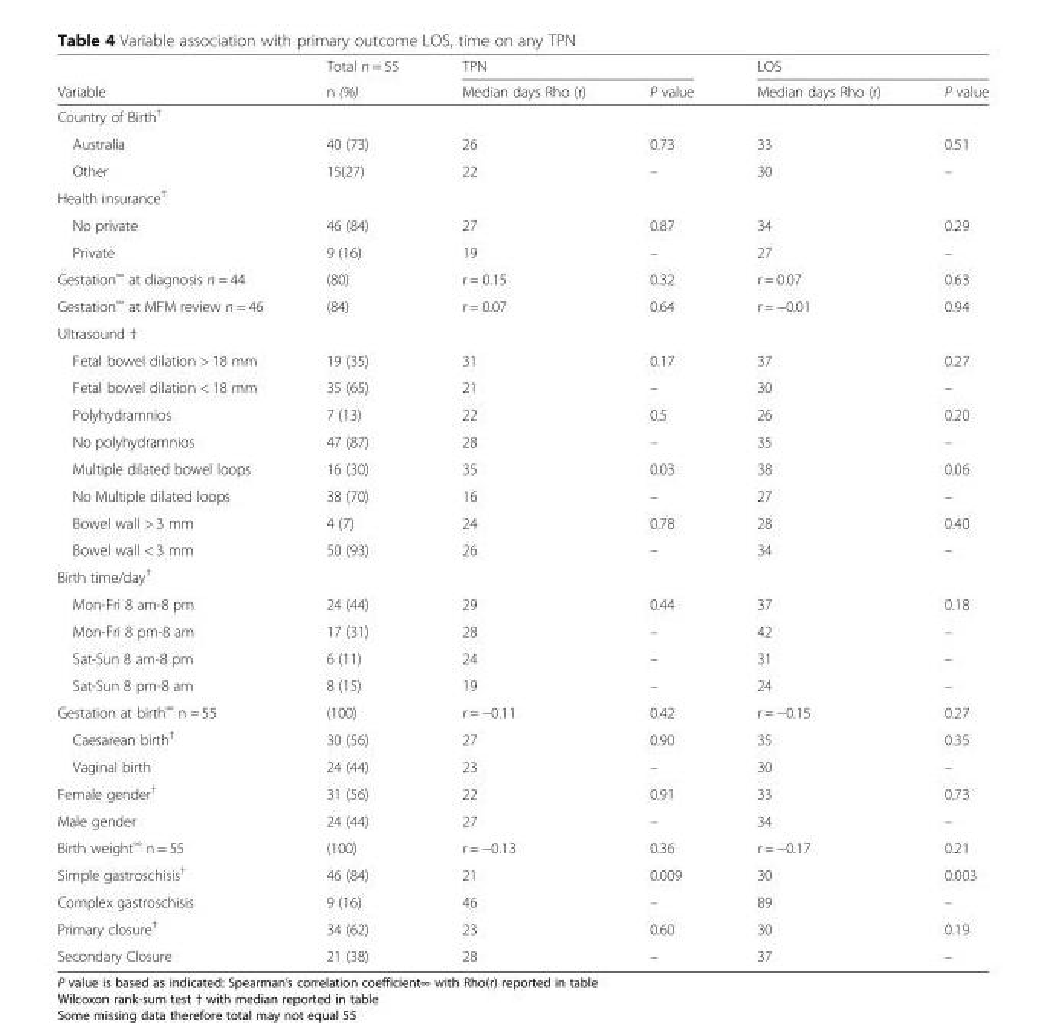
<table><thead><tr><td rowspan="2">Variable</td><td rowspan="2">Total n = 55 n (%)</td><td colspan="2">TPN</td><td colspan="2">LOS</td></tr><tr><td>Median days Rho (r)</td><td>P value</td><td>Median days Rho (r)</td><td>P value</td></tr></thead><tbody><tr><td colspan="6">Country of Birth<sup>†</sup></td></tr><tr><td>Australia</td><td>40 (73)</td><td>26</td><td>0.73</td><td>33</td><td>0.51</td></tr><tr><td>Other</td><td>15(27)</td><td>22</td><td>–</td><td>30</td><td>–</td></tr><tr><td colspan="6">Health insurance<sup>†</sup></td></tr><tr><td>No private</td><td>46 (84)</td><td>27</td><td>0.87</td><td>34</td><td>0.29</td></tr><tr><td>Private</td><td>9 (16)</td><td>19</td><td>–</td><td>27</td><td>–</td></tr><tr><td>Gestation<sup>∞</sup> at diagnosis n = 44</td><td>(80)</td><td>r = 0.15</td><td>0.32</td><td>r = 0.07</td><td>0.63</td></tr><tr><td>Gestation<sup>∞</sup> at MFM review n = 46</td><td>(84)</td><td>r = 0.07</td><td>0.64</td><td>r = −0.01</td><td>0.94</td></tr><tr><td colspan="6">Ultrasound †</td></tr><tr><td>Fetal bowel dilation &gt; 18 mm</td><td>19 (35)</td><td>31</td><td>0.17</td><td>37</td><td>0.27</td></tr><tr><td>Fetal bowel dilation &lt; 18 mm</td><td>35 (65)</td><td>21</td><td>–</td><td>30</td><td>–</td></tr><tr><td>Polyhydramnios</td><td>7 (13)</td><td>22</td><td>0.5</td><td>26</td><td>0.20</td></tr><tr><td>No polyhydramnios</td><td>47 (87)</td><td>28</td><td>–</td><td>35</td><td>–</td></tr><tr><td>Multiple dilated bowel loops</td><td>16 (30)</td><td>35</td><td>0.03</td><td>38</td><td>0.06</td></tr><tr><td>No Multiple dilated loops</td><td>38 (70)</td><td>16</td><td>–</td><td>27</td><td>–</td></tr><tr><td>Bowel wall &gt; 3 mm</td><td>4 (7)</td><td>24</td><td>0.78</td><td>28</td><td>0.40</td></tr><tr><td>Bowel wall &lt; 3 mm</td><td>50 (93)</td><td>26</td><td>–</td><td>34</td><td>–</td></tr><tr><td colspan="6">Birth time/day<sup>†</sup></td></tr><tr><td>Mon-Fri 8 am-8 pm</td><td>24 (44)</td><td>29</td><td>0.44</td><td>37</td><td>0.18</td></tr><tr><td>Mon-Fri 8 pm-8 am</td><td>17 (31)</td><td>28</td><td>–</td><td>42</td><td>–</td></tr><tr><td>Sat-Sun 8 am-8 pm</td><td>6 (11)</td><td>24</td><td>–</td><td>31</td><td>–</td></tr><tr><td>Sat-Sun 8 pm-8 am</td><td>8 (15)</td><td>19</td><td>–</td><td>24</td><td>–</td></tr><tr><td>Gestation at birth<sup>∞</sup> n = 55</td><td>(100)</td><td>r = −0.11</td><td>0.42</td><td>r = −0.15</td><td>0.27</td></tr><tr><td>Caesarean birth<sup>†</sup></td><td>30 (56)</td><td>27</td><td>0.90</td><td>35</td><td>0.35</td></tr><tr><td>Vaginal birth</td><td>24 (44)</td><td>23</td><td>–</td><td>30</td><td>–</td></tr><tr><td>Female gender<sup>†</sup></td><td>31 (56)</td><td>22</td><td>0.91</td><td>33</td><td>0.73</td></tr><tr><td>Male gender</td><td>24 (44)</td><td>27</td><td>–</td><td>34</td><td>–</td></tr><tr><td>Birth weight<sup>∞</sup> n = 55</td><td>(100)</td><td>r = −0.13</td><td>0.36</td><td>r = −0.17</td><td>0.21</td></tr><tr><td>Simple gastroschisis<sup>†</sup></td><td>46 (84)</td><td>21</td><td>0.009</td><td>30</td><td>0.003</td></tr><tr><td>Complex gastroschisis</td><td>9 (16)</td><td>46</td><td>–</td><td>89</td><td>–</td></tr><tr><td>Primary closure<sup>†</sup></td><td>34 (62)</td><td>23</td><td>0.60</td><td>30</td><td>0.19</td></tr><tr><td>Secondary Closure</td><td>21 (38)</td><td>28</td><td>–</td><td>37</td><td>–</td></tr></tbody></table>